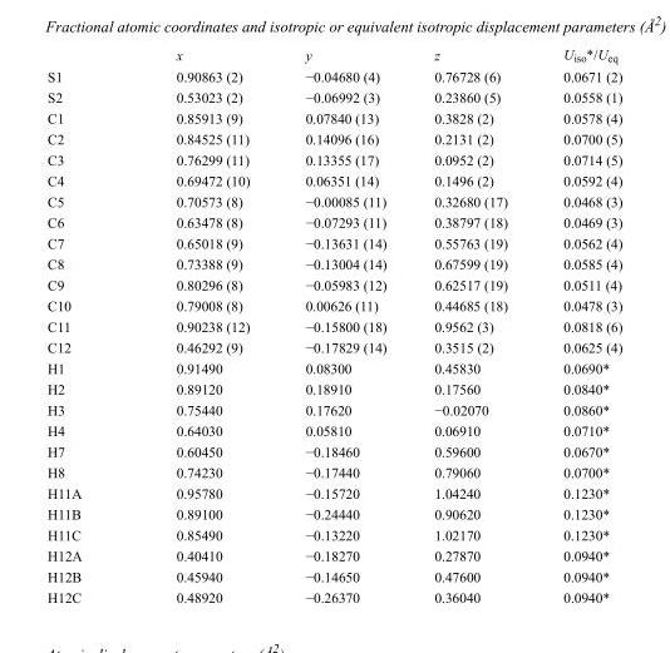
<table><thead><tr><td></td><td>x</td><td>y</td><td>z</td><td>U<sub>iso</sub>*/U<sub>eq</sub></td></tr></thead><tbody><tr><td>S1</td><td>0.90863 (2)</td><td>−0.04680 (4)</td><td>0.76728 (6)</td><td>0.0671 (2)</td></tr><tr><td>S2</td><td>0.53023 (2)</td><td>−0.06992 (3)</td><td>0.23860 (5)</td><td>0.0558 (1)</td></tr><tr><td>C1</td><td>0.85913 (9)</td><td>0.07840 (13)</td><td>0.3828 (2)</td><td>0.0578 (4)</td></tr><tr><td>C2</td><td>0.84525 (11)</td><td>0.14096 (16)</td><td>0.2131 (2)</td><td>0.0700 (5)</td></tr><tr><td>C3</td><td>0.76299 (11)</td><td>0.13355 (17)</td><td>0.0952 (2)</td><td>0.0714 (5)</td></tr><tr><td>C4</td><td>0.69472 (10)</td><td>0.06351 (14)</td><td>0.1496 (2)</td><td>0.0592 (4)</td></tr><tr><td>C5</td><td>0.70573 (8)</td><td>−0.00085 (11)</td><td>0.32680 (17)</td><td>0.0468 (3)</td></tr><tr><td>C6</td><td>0.63478 (8)</td><td>−0.07293 (11)</td><td>0.38797 (18)</td><td>0.0469 (3)</td></tr><tr><td>C7</td><td>0.65018 (9)</td><td>−0.13631 (14)</td><td>0.55763 (19)</td><td>0.0562 (4)</td></tr><tr><td>C8</td><td>0.73388 (9)</td><td>−0.13004 (14)</td><td>0.67599 (19)</td><td>0.0585 (4)</td></tr><tr><td>C9</td><td>0.80296 (8)</td><td>−0.05983 (12)</td><td>0.62517 (19)</td><td>0.0511 (4)</td></tr><tr><td>C10</td><td>0.79008 (8)</td><td>0.00626 (11)</td><td>0.44685 (18)</td><td>0.0478 (3)</td></tr><tr><td>C11</td><td>0.90238 (12)</td><td>−0.15800 (18)</td><td>0.9562 (3)</td><td>0.0818 (6)</td></tr><tr><td>C12</td><td>0.46292 (9)</td><td>−0.17829 (14)</td><td>0.3515 (2)</td><td>0.0625 (4)</td></tr><tr><td>H1</td><td>0.91490</td><td>0.08300</td><td>0.45830</td><td>0.0690*</td></tr><tr><td>H2</td><td>0.89120</td><td>0.18910</td><td>0.17560</td><td>0.0840*</td></tr><tr><td>H3</td><td>0.75440</td><td>0.17620</td><td>−0.02070</td><td>0.0860*</td></tr><tr><td>H4</td><td>0.64030</td><td>0.05810</td><td>0.06910</td><td>0.0710*</td></tr><tr><td>H7</td><td>0.60450</td><td>−0.18460</td><td>0.59600</td><td>0.0670*</td></tr><tr><td>H8</td><td>0.74230</td><td>−0.17440</td><td>0.79060</td><td>0.0700*</td></tr><tr><td>H11A</td><td>0.95780</td><td>−0.15720</td><td>1.04240</td><td>0.1230*</td></tr><tr><td>H11B</td><td>0.89100</td><td>−0.24440</td><td>0.90620</td><td>0.1230*</td></tr><tr><td>H11C</td><td>0.85490</td><td>−0.13220</td><td>1.02170</td><td>0.1230*</td></tr><tr><td>H12A</td><td>0.40410</td><td>−0.18270</td><td>0.27870</td><td>0.0940*</td></tr><tr><td>H12B</td><td>0.45940</td><td>−0.14650</td><td>0.47600</td><td>0.0940*</td></tr><tr><td>H12C</td><td>0.48920</td><td>−0.26370</td><td>0.36040</td><td>0.0940*</td></tr></tbody></table>